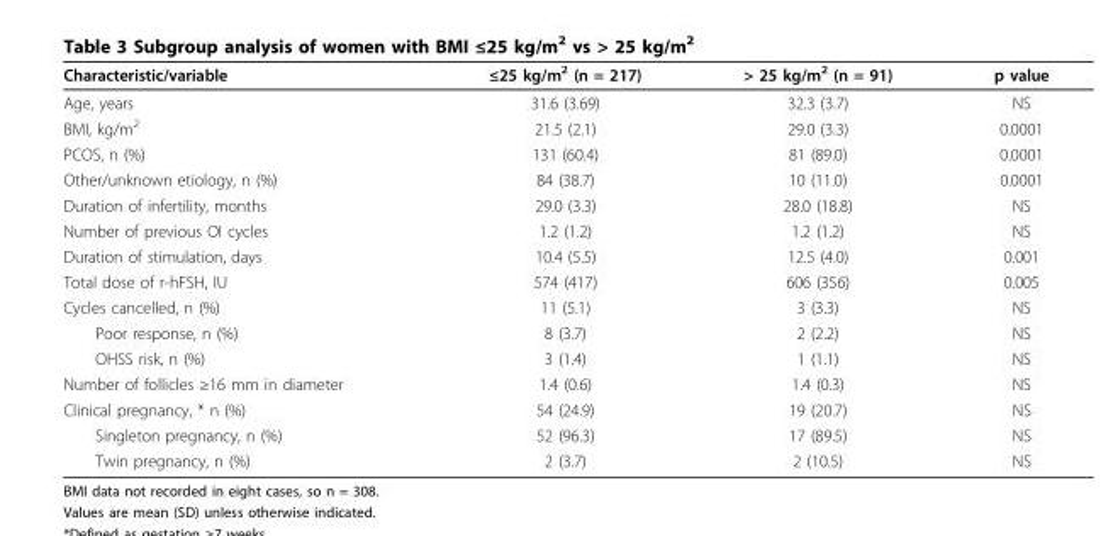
<table><thead><tr><td>Characteristic/variable</td><td>≤25 kg/m<sup>2</sup> (n = 217)</td><td>&gt; 25 kg/m<sup>2</sup> (n = 91)</td><td>p value</td></tr></thead><tbody><tr><td>Age, years</td><td>31.6 (3.69)</td><td>32.3 (3.7)</td><td>NS</td></tr><tr><td>BMI, kg/m<sup>2</sup></td><td>21.5 (2.1)</td><td>29.0 (3.3)</td><td>0.0001</td></tr><tr><td>PCOS, n (%)</td><td>131 (60.4)</td><td>81 (89.0)</td><td>0.0001</td></tr><tr><td>Other/unknown etiology, n (%)</td><td>84 (38.7)</td><td>10 (11.0)</td><td>0.0001</td></tr><tr><td>Duration of infertility, months</td><td>29.0 (3.3)</td><td>28.0 (18.8)</td><td>NS</td></tr><tr><td>Number of previous OI cycles</td><td>1.2 (1.2)</td><td>1.2 (1.2)</td><td>NS</td></tr><tr><td>Duration of stimulation, days</td><td>10.4 (5.5)</td><td>12.5 (4.0)</td><td>0.001</td></tr><tr><td>Total dose of r-hFSH, IU</td><td>574 (417)</td><td>606 (356)</td><td>0.005</td></tr><tr><td>Cycles cancelled, n (%)</td><td>11 (5.1)</td><td>3 (3.3)</td><td>NS</td></tr><tr><td>Poor response, n (%)</td><td>8 (3.7)</td><td>2 (2.2)</td><td>NS</td></tr><tr><td>OHSS risk, n (%)</td><td>3 (1.4)</td><td>1 (1.1)</td><td>NS</td></tr><tr><td>Number of follicles ≥16 mm in diameter</td><td>1.4 (0.6)</td><td>1.4 (0.3)</td><td>NS</td></tr><tr><td>Clinical pregnancy, * n (%)</td><td>54 (24.9)</td><td>19 (20.7)</td><td>NS</td></tr><tr><td>Singleton pregnancy, n (%)</td><td>52 (96.3)</td><td>17 (89.5)</td><td>NS</td></tr><tr><td>Twin pregnancy, n (%)</td><td>2 (3.7)</td><td>2 (10.5)</td><td>NS</td></tr></tbody></table>